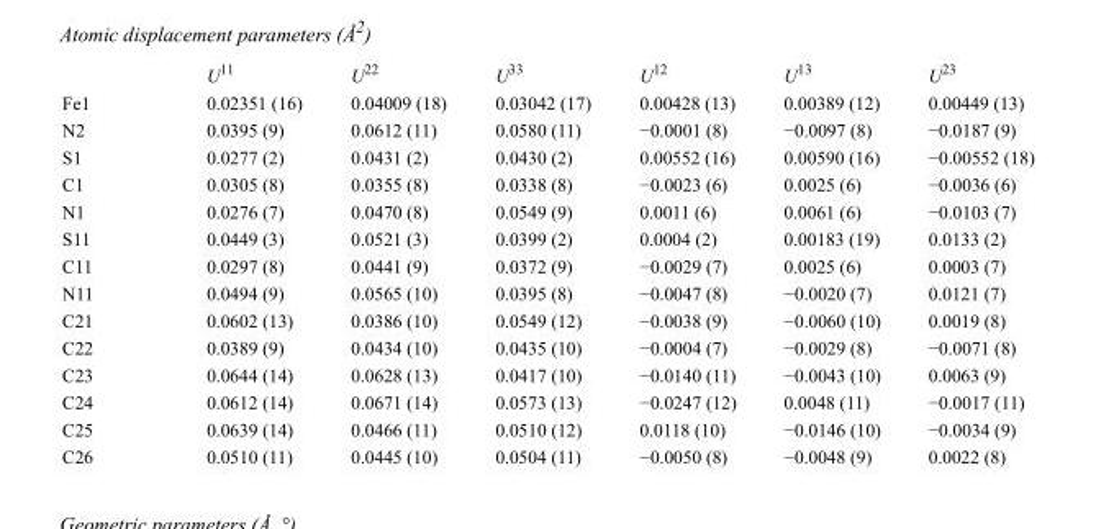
<table><thead><tr><td></td><td>U<sup>11</sup></td><td>U<sup>22</sup></td><td>U<sup>33</sup></td><td>U<sup>12</sup></td><td>U<sup>13</sup></td><td>U<sup>23</sup></td></tr></thead><tbody><tr><td>Fe1</td><td>0.02351 (16)</td><td>0.04009 (18)</td><td>0.03042 (17)</td><td>0.00428 (13)</td><td>0.00389 (12)</td><td>0.00449 (13)</td></tr><tr><td>N2</td><td>0.0395 (9)</td><td>0.0612 (11)</td><td>0.0580 (11)</td><td>−0.0001 (8)</td><td>−0.0097 (8)</td><td>−0.0187 (9)</td></tr><tr><td>S1</td><td>0.0277 (2)</td><td>0.0431 (2)</td><td>0.0430 (2)</td><td>0.00552 (16)</td><td>0.00590 (16)</td><td>−0.00552 (18)</td></tr><tr><td>C1</td><td>0.0305 (8)</td><td>0.0355 (8)</td><td>0.0338 (8)</td><td>−0.0023 (6)</td><td>0.0025 (6)</td><td>−0.0036 (6)</td></tr><tr><td>N1</td><td>0.0276 (7)</td><td>0.0470 (8)</td><td>0.0549 (9)</td><td>0.0011 (6)</td><td>0.0061 (6)</td><td>−0.0103 (7)</td></tr><tr><td>S11</td><td>0.0449 (3)</td><td>0.0521 (3)</td><td>0.0399 (2)</td><td>0.0004 (2)</td><td>0.00183 (19)</td><td>0.0133 (2)</td></tr><tr><td>C11</td><td>0.0297 (8)</td><td>0.0441 (9)</td><td>0.0372 (9)</td><td>−0.0029 (7)</td><td>0.0025 (6)</td><td>0.0003 (7)</td></tr><tr><td>N11</td><td>0.0494 (9)</td><td>0.0565 (10)</td><td>0.0395 (8)</td><td>−0.0047 (8)</td><td>−0.0020 (7)</td><td>0.0121 (7)</td></tr><tr><td>C21</td><td>0.0602 (13)</td><td>0.0386 (10)</td><td>0.0549 (12)</td><td>−0.0038 (9)</td><td>−0.0060 (10)</td><td>0.0019 (8)</td></tr><tr><td>C22</td><td>0.0389 (9)</td><td>0.0434 (10)</td><td>0.0435 (10)</td><td>−0.0004 (7)</td><td>−0.0029 (8)</td><td>−0.0071 (8)</td></tr><tr><td>C23</td><td>0.0644 (14)</td><td>0.0628 (13)</td><td>0.0417 (10)</td><td>−0.0140 (11)</td><td>−0.0043 (10)</td><td>0.0063 (9)</td></tr><tr><td>C24</td><td>0.0612 (14)</td><td>0.0671 (14)</td><td>0.0573 (13)</td><td>−0.0247 (12)</td><td>0.0048 (11)</td><td>−0.0017 (11)</td></tr><tr><td>C25</td><td>0.0639 (14)</td><td>0.0466 (11)</td><td>0.0510 (12)</td><td>0.0118 (10)</td><td>−0.0146 (10)</td><td>−0.0034 (9)</td></tr><tr><td>C26</td><td>0.0510 (11)</td><td>0.0445 (10)</td><td>0.0504 (11)</td><td>−0.0050 (8)</td><td>−0.0048 (9)</td><td>0.0022 (8)</td></tr></tbody></table>